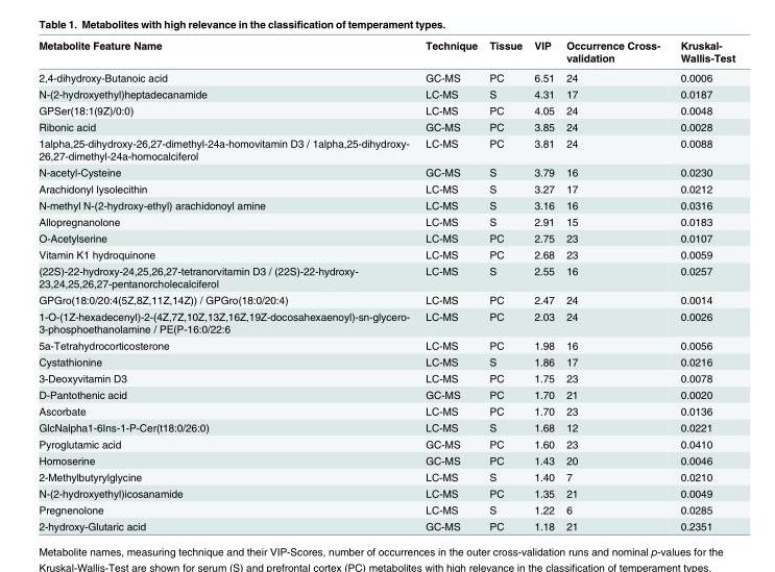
<table><thead><tr><td>Metabolite Feature Name</td><td>Technique</td><td>Tissue</td><td>VIP</td><td>Occurrence Cross- validation</td><td>Kruskal- Wallis-Test</td></tr></thead><tbody><tr><td>2,4-dihydroxy-Butanoic acid</td><td>GC-MS</td><td>PC</td><td>6.51</td><td>24</td><td>0.0006</td></tr><tr><td>N-(2-hydroxyethyl)heptadecanamide</td><td>LC-MS</td><td>S</td><td>4.31</td><td>17</td><td>0.0187</td></tr><tr><td>GPSer(18:1(9Z)/0:0)</td><td>LC-MS</td><td>PC</td><td>4.05</td><td>24</td><td>0.0048</td></tr><tr><td>Ribonic acid</td><td>GC-MS</td><td>PC</td><td>3.85</td><td>24</td><td>0.0028</td></tr><tr><td>1alpha,25-dihydroxy-26,27-dimethyl-24a-homovitamin D3 / 1alpha,25-dihydroxy- 26,27-dimethyl-24a-homocalciferol</td><td>LC-MS</td><td>PC</td><td>3.81</td><td>24</td><td>0.0088</td></tr><tr><td>N-acetyl-Cysteine</td><td>GC-MS</td><td>S</td><td>3.79</td><td>16</td><td>0.0230</td></tr><tr><td>Arachidonyl lysolecithin</td><td>LC-MS</td><td>S</td><td>3.27</td><td>17</td><td>0.0212</td></tr><tr><td>N-methyl N-(2-hydroxy-ethyl) arachidonoyl amine</td><td>LC-MS</td><td>S</td><td>3.16</td><td>16</td><td>0.0316</td></tr><tr><td>Allopregnanolone</td><td>LC-MS</td><td>S</td><td>2.91</td><td>15</td><td>0.0183</td></tr><tr><td>O-Acetylserine</td><td>LC-MS</td><td>PC</td><td>2.75</td><td>23</td><td>0.0107</td></tr><tr><td>Vitamin K1 hydroquinone</td><td>LC-MS</td><td>PC</td><td>2.68</td><td>23</td><td>0.0059</td></tr><tr><td>(22S)-22-hydroxy-24,25,26,27-tetranorvitamin D3 / (22S)-22-hydroxy- 23,24,25,26,27-pentanorcholecalciferol</td><td>LC-MS</td><td>S</td><td>2.55</td><td>16</td><td>0.0257</td></tr><tr><td>GPGro(18:0/20:4(5Z,8Z,11Z,14Z)) / GPGro(18:0/20:4)</td><td>LC-MS</td><td>PC</td><td>2.47</td><td>24</td><td>0.0014</td></tr><tr><td>1-O-(1Z-hexadecenyl)-2-(4Z,7Z,10Z,13Z,16Z,19Z-docosahexaenoyl)-sn-glycero- 3-phosphoethanolamine / PE(P-16:0/22:6</td><td>LC-MS</td><td>PC</td><td>2.03</td><td>24</td><td>0.0026</td></tr><tr><td>5a-Tetrahydrocorticosterone</td><td>LC-MS</td><td>PC</td><td>1.98</td><td>16</td><td>0.0056</td></tr><tr><td>Cystathionine</td><td>LC-MS</td><td>S</td><td>1.86</td><td>17</td><td>0.0216</td></tr><tr><td>3-Deoxyvitamin D3</td><td>LC-MS</td><td>PC</td><td>1.75</td><td>23</td><td>0.0078</td></tr><tr><td>D-Pantothenic acid</td><td>GC-MS</td><td>PC</td><td>1.70</td><td>21</td><td>0.0020</td></tr><tr><td>Ascorbate</td><td>LC-MS</td><td>PC</td><td>1.70</td><td>23</td><td>0.0136</td></tr><tr><td>GlcNalpha1-6Ins-1-P-Cer(t18:0/26:0)</td><td>LC-MS</td><td>S</td><td>1.68</td><td>12</td><td>0.0221</td></tr><tr><td>Pyroglutamic acid</td><td>GC-MS</td><td>PC</td><td>1.60</td><td>23</td><td>0.0410</td></tr><tr><td>Homoserine</td><td>GC-MS</td><td>PC</td><td>1.43</td><td>20</td><td>0.0046</td></tr><tr><td>2-Methylbutyrylglycine</td><td>LC-MS</td><td>S</td><td>1.40</td><td>7</td><td>0.0210</td></tr><tr><td>N-(2-hydroxyethyl)icosanamide</td><td>LC-MS</td><td>PC</td><td>1.35</td><td>21</td><td>0.0049</td></tr><tr><td>Pregnenolone</td><td>LC-MS</td><td>S</td><td>1.22</td><td>6</td><td>0.0285</td></tr><tr><td>2-hydroxy-Glutaric acid</td><td>GC-MS</td><td>PC</td><td>1.18</td><td>21</td><td>0.2351</td></tr></tbody></table>